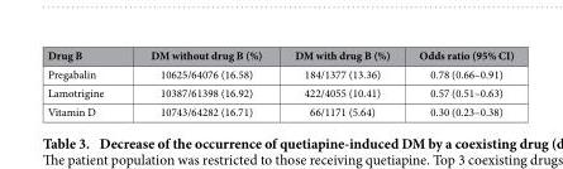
<table><thead><tr><td>Drug B</td><td>DM without drug B (%)</td><td>DM with drug B (%)</td><td>Odds ratio (95% CI)</td></tr></thead><tbody><tr><td>Pregabalin</td><td>10625/64076 (16.58)</td><td>184/1377 (13.36)</td><td>0.78 (0.66–0.91)</td></tr><tr><td>Lamotrigine</td><td>10387/61398 (16.92)</td><td>422/4055 (10.41)</td><td>0.57 (0.51–0.63)</td></tr><tr><td>Vitamin D</td><td>10743/64282 (16.71)</td><td>66/1171 (5.64)</td><td>0.30 (0.23–0.38)</td></tr></tbody></table>